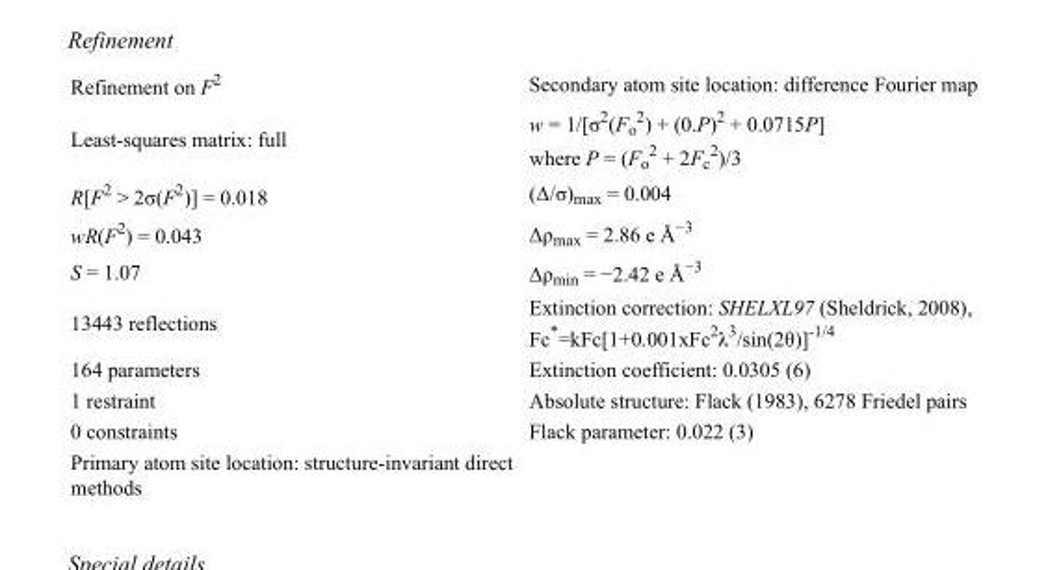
<table><tbody><tr><td>Refinement on F<sup>2</sup></td><td>Secondary atom site location: difference Fourier map</td></tr><tr><td>Least-squares matrix: full</td><td>w = 1/[σ<sup>2</sup>(F<sub>o</sub> <sup>2</sup>) + (0.P)<sup>2</sup> + 0.0715P] where P = (F<sub>o</sub> <sup>2</sup> + 2F<sub>c</sub> <sup>2</sup>)/3</td></tr><tr><td>R[F<sup>2</sup> &gt; 2σ(F<sup>2</sup>)] = 0.018</td><td>(Δ/σ)<sub>max</sub> = 0.004</td></tr><tr><td>wR(F<sup>2</sup>) = 0.043</td><td>Δρ<sub>max</sub> = 2.86 e Å<sup>−3</sup></td></tr><tr><td>S = 1.07</td><td>Δρmin = −2.42 e Å−3</td></tr><tr><td>13443 reflections</td><td>Extinction correction: SHELXL97 (Sheldrick, 2008), Fc*=kFc[1+0.001xFc<sup>2</sup>λ<sup>3</sup>/sin(2θ)]<sup>-1/4</sup></td></tr><tr><td>164 parameters</td><td>Extinction coefficient: 0.0305 (6)</td></tr><tr><td>1 restraint</td><td>Absolute structure: Flack (1983), 6278 Friedel pairs</td></tr><tr><td>0 constraints</td><td>Flack parameter: 0.022 (3)</td></tr><tr><td>Primary atom site location: structure-invariant direct methods</td><td></td></tr></tbody></table>